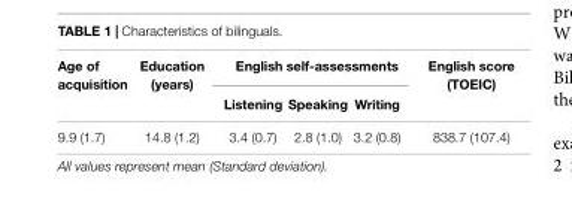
<table><thead><tr><td rowspan="2">Age of acquisition</td><td rowspan="2">Education (years)</td><td colspan="3">English self-assessments</td><td rowspan="2">English score (TOEIC)</td></tr><tr><td>Listening</td><td>Speaking</td><td>Writing</td></tr></thead><tbody><tr><td>9.9 (1.7)</td><td>14.8 (1.2)</td><td>3.4 (0.7)</td><td>2.8 (1.0)</td><td>3.2 (0.8)</td><td>838.7 (107.4)</td></tr></tbody></table>